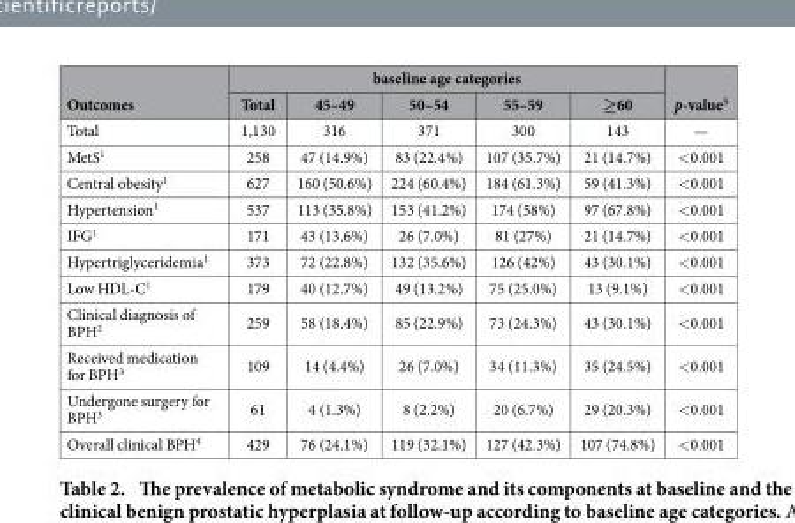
<table><thead><tr><td rowspan="2">Outcomes</td><td colspan="5">baseline age categories</td><td rowspan="2">p-value<sup>5</sup></td></tr><tr><td>Total</td><td>45–49</td><td>50–54</td><td>55–59</td><td>≥60</td></tr></thead><tbody><tr><td>Total</td><td>1,130</td><td>316</td><td>371</td><td>300</td><td>143</td><td>—</td></tr><tr><td>MetS<sup>1</sup></td><td>258</td><td>47 (14.9%)</td><td>83 (22.4%)</td><td>107 (35.7%)</td><td>21 (14.7%)</td><td>&lt; 0.001</td></tr><tr><td>Central obesity<sup>1</sup></td><td>627</td><td>160 (50.6%)</td><td>224 (60.4%)</td><td>184 (61.3%)</td><td>59 (41.3%)</td><td>&lt; 0.001</td></tr><tr><td>Hypertension<sup>1</sup></td><td>537</td><td>113 (35.8%)</td><td>153 (41.2%)</td><td>174 (58%)</td><td>97 (67.8%)</td><td>&lt; 0.001</td></tr><tr><td>IFG<sup>1</sup></td><td>171</td><td>43 (13.6%)</td><td>26 (7.0%)</td><td>81 (27%)</td><td>21 (14.7%)</td><td>&lt; 0.001</td></tr><tr><td>Hypertriglyceridemia<sup>1</sup></td><td>373</td><td>72 (22.8%)</td><td>132 (35.6%)</td><td>126 (42%)</td><td>43 (30.1%)</td><td>&lt; 0.001</td></tr><tr><td>Low HDL-C<sup>1</sup></td><td>179</td><td>40 (12.7%)</td><td>49 (13.2%)</td><td>75 (25.0%)</td><td>13 (9.1%)</td><td>&lt; 0.001</td></tr><tr><td>Clinical diagnosis of BPH<sup>2</sup></td><td>259</td><td>58 (18.4%)</td><td>85 (22.9%)</td><td>73 (24.3%)</td><td>43 (30.1%)</td><td>&lt; 0.001</td></tr><tr><td>Received medication for BPH<sup>3</sup></td><td>109</td><td>14 (4.4%)</td><td>26 (7.0%)</td><td>34 (11.3%)</td><td>35 (24.5%)</td><td>&lt; 0.001</td></tr><tr><td>Undergone surgery for BPH<sup>3</sup></td><td>61</td><td>4 (1.3%)</td><td>8 (2.2%)</td><td>20 (6.7%)</td><td>29 (20.3%)</td><td>&lt; 0.001</td></tr><tr><td>Overall clinical BPH<sup>4</sup></td><td>429</td><td>76 (24.1%)</td><td>119 (32.1%)</td><td>127 (42.3%)</td><td>107 (74.8%)</td><td>&lt; 0.001</td></tr></tbody></table>